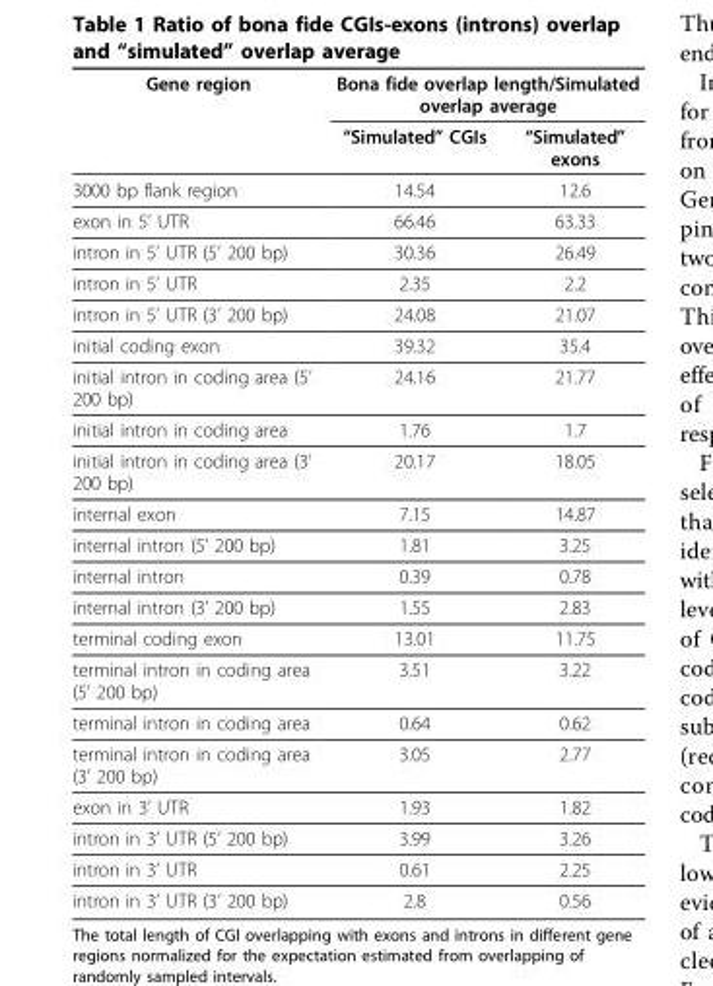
<table><thead><tr><td rowspan="2">Gene region</td><td colspan="2">Bona fide overlap length/Simulated overlap average</td></tr><tr><td>“Simulated” CGIs</td><td>“Simulated” exons</td></tr></thead><tbody><tr><td>3000 bp flank region</td><td>14.54</td><td>12.6</td></tr><tr><td>exon in 5’ UTR</td><td>66.46</td><td>63.33</td></tr><tr><td>intron in 5’ UTR (5’ 200 bp)</td><td>30.36</td><td>26.49</td></tr><tr><td>intron in 5’ UTR</td><td>2.35</td><td>2.2</td></tr><tr><td>intron in 5’ UTR (3’ 200 bp)</td><td>24.08</td><td>21.07</td></tr><tr><td>initial coding exon</td><td>39.32</td><td>35.4</td></tr><tr><td>initial intron in coding area (5’ 200 bp)</td><td>24.16</td><td>21.77</td></tr><tr><td>initial intron in coding area</td><td>1.76</td><td>1.7</td></tr><tr><td>initial intron in coding area (3’ 200 bp)</td><td>20.17</td><td>18.05</td></tr><tr><td>internal exon</td><td>7.15</td><td>14.87</td></tr><tr><td>internal intron (5’ 200 bp)</td><td>1.81</td><td>3.25</td></tr><tr><td>internal intron</td><td>0.39</td><td>0.78</td></tr><tr><td>internal intron (3’ 200 bp)</td><td>1.55</td><td>2.83</td></tr><tr><td>terminal coding exon</td><td>13.01</td><td>11.75</td></tr><tr><td>terminal intron in coding area (5’ 200 bp)</td><td>3.51</td><td>3.22</td></tr><tr><td>terminal intron in coding area</td><td>0.64</td><td>0.62</td></tr><tr><td>terminal intron in coding area (3’ 200 bp)</td><td>3.05</td><td>2.77</td></tr><tr><td>exon in 3’ UTR</td><td>1.93</td><td>1.82</td></tr><tr><td>intron in 3’ UTR (5’ 200 bp)</td><td>3.99</td><td>3.26</td></tr><tr><td>intron in 3’ UTR</td><td>0.61</td><td>2.25</td></tr><tr><td>intron in 3’ UTR (3’ 200 bp)</td><td>2.8</td><td>0.56</td></tr></tbody></table>